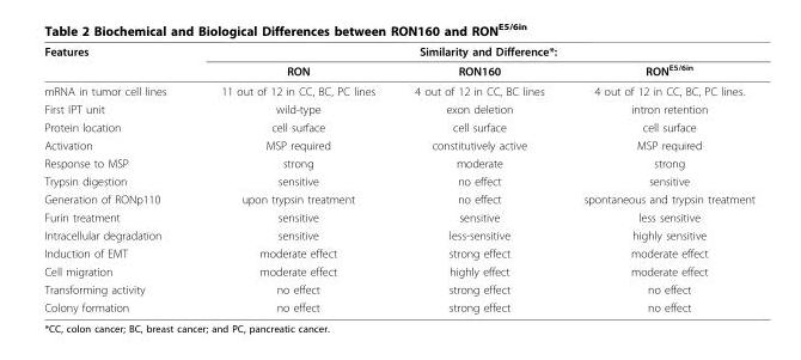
<table><thead><tr><td rowspan="2">Features</td><td colspan="3">Similarity and Difference*:</td></tr><tr><td>RON</td><td>RON160</td><td>RON<sup>E5/6in</sup></td></tr></thead><tbody><tr><td>mRNA in tumor cell lines</td><td>11 out of 12 in CC, BC, PC lines</td><td>4 out of 12 in CC, BC lines</td><td>4 out of 12 in CC, BC, PC lines.</td></tr><tr><td>First IPT unit</td><td>wild-type</td><td>exon deletion</td><td>intron retention</td></tr><tr><td>Protein location</td><td>cell surface</td><td>cell surface</td><td>cell surface</td></tr><tr><td>Activation</td><td>MSP required</td><td>constitutively active</td><td>MSP required</td></tr><tr><td>Response to MSP</td><td>strong</td><td>moderate</td><td>strong</td></tr><tr><td>Trypsin digestion</td><td>sensitive</td><td>no effect</td><td>sensitive</td></tr><tr><td>Generation of RONp110</td><td>upon trypsin treatment</td><td>no effect</td><td>spontaneous and trypsin treatment</td></tr><tr><td>Furin treatment</td><td>sensitive</td><td>sensitive</td><td>less sensitive</td></tr><tr><td>Intracellular degradation</td><td>sensitive</td><td>less-sensitive</td><td>highly sensitive</td></tr><tr><td>Induction of EMT</td><td>moderate effect</td><td>strong effect</td><td>moderate effect</td></tr><tr><td>Cell migration</td><td>moderate effect</td><td>highly effect</td><td>moderate effect</td></tr><tr><td>Transforming activity</td><td>no effect</td><td>strong effect</td><td>no effect</td></tr><tr><td>Colony formation</td><td>no effect</td><td>strong effect</td><td>no effect</td></tr></tbody></table>